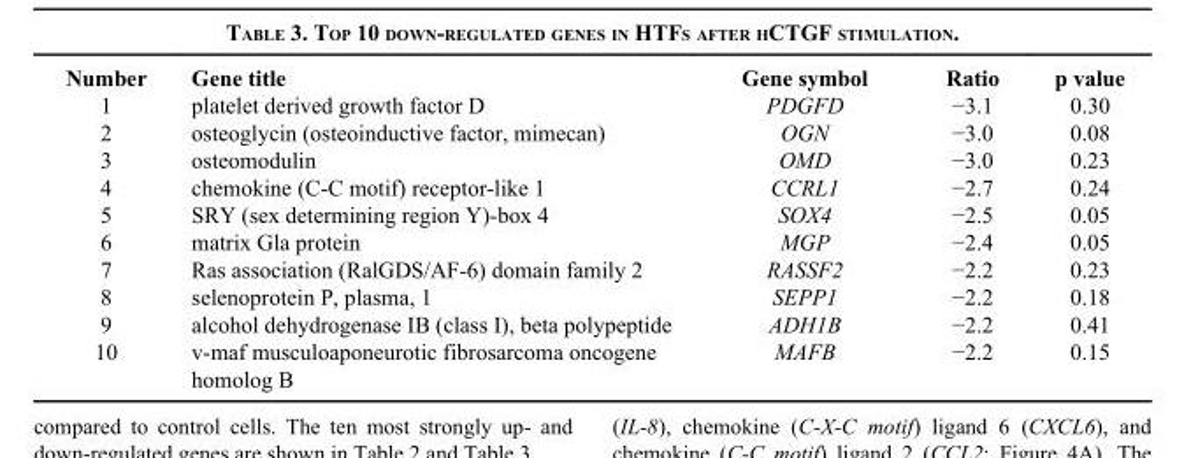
<table><thead><tr><td>Number</td><td>Gene title</td><td>Gene symbol</td><td>Ratio</td><td>p value</td></tr></thead><tbody><tr><td>1</td><td>platelet derived growth factor D</td><td>PDGFD</td><td>−3.1</td><td>0.30</td></tr><tr><td>2</td><td>osteoglycin (osteoinductive factor, mimecan)</td><td>OGN</td><td>−3.0</td><td>0.08</td></tr><tr><td>3</td><td>osteomodulin</td><td>OMD</td><td>−3.0</td><td>0.23</td></tr><tr><td>4</td><td>chemokine (C-C motif) receptor-like 1</td><td>CCRL1</td><td>−2.7</td><td>0.24</td></tr><tr><td>5</td><td>SRY (sex determining region Y)-box 4</td><td>SOX4</td><td>−2.5</td><td>0.05</td></tr><tr><td>6</td><td>matrix Gla protein</td><td>MGP</td><td>−2.4</td><td>0.05</td></tr><tr><td>7</td><td>Ras association (RalGDS/AF-6) domain family 2</td><td>RASSF2</td><td>−2.2</td><td>0.23</td></tr><tr><td>8</td><td>selenoprotein P, plasma, 1</td><td>SEPP1</td><td>−2.2</td><td>0.18</td></tr><tr><td>9</td><td>alcohol dehydrogenase IB (class I), beta polypeptide</td><td>ADH1B</td><td>−2.2</td><td>0.41</td></tr><tr><td>10</td><td>v-maf musculoaponeurotic fibrosarcoma oncogene homolog B</td><td>MAFB</td><td>−2.2</td><td>0.15</td></tr></tbody></table>